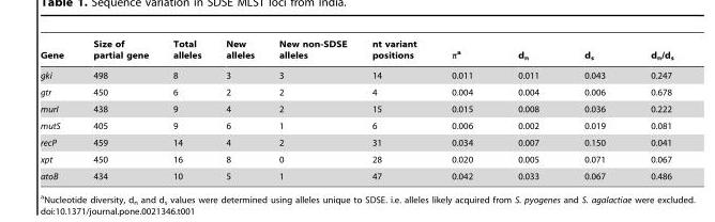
<table><thead><tr><td>Gene</td><td>Size of partial gene</td><td>Total alleles</td><td>New alleles</td><td>New non-SDSE alleles</td><td>nt variant positions</td><td>π<sup>a</sup></td><td>d<sub>n</sub></td><td>d<sub>s</sub></td><td>d<sub>n</sub>/d<sub>s</sub></td></tr></thead><tbody><tr><td>gki</td><td>498</td><td>8</td><td>3</td><td>3</td><td>14</td><td>0.011</td><td>0.011</td><td>0.043</td><td>0.247</td></tr><tr><td>gtr</td><td>450</td><td>6</td><td>2</td><td>2</td><td>4</td><td>0.004</td><td>0.004</td><td>0.006</td><td>0.678</td></tr><tr><td>murI</td><td>438</td><td>9</td><td>4</td><td>2</td><td>15</td><td>0.015</td><td>0.008</td><td>0.036</td><td>0.222</td></tr><tr><td>mutS</td><td>405</td><td>9</td><td>6</td><td>1</td><td>6</td><td>0.006</td><td>0.002</td><td>0.019</td><td>0.081</td></tr><tr><td>recP</td><td>459</td><td>14</td><td>4</td><td>2</td><td>31</td><td>0.034</td><td>0.007</td><td>0.150</td><td>0.041</td></tr><tr><td>xpt</td><td>450</td><td>16</td><td>8</td><td>0</td><td>28</td><td>0.020</td><td>0.005</td><td>0.071</td><td>0.067</td></tr><tr><td>atoB</td><td>434</td><td>10</td><td>5</td><td>1</td><td>47</td><td>0.042</td><td>0.033</td><td>0.067</td><td>0.486</td></tr></tbody></table>